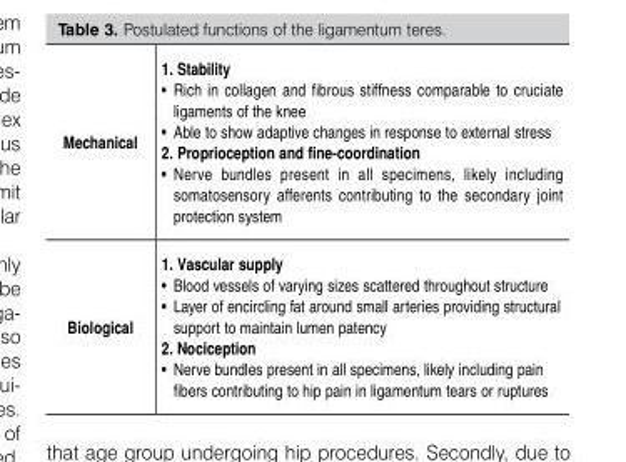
<table><tbody><tr><td>Mechanical</td><td>1. Stability • Rich in collagen and fibrous stiffness comparable to cruciate ligaments of the knee • Able to show adaptive changes in response to external stress 2. Proprioception and fine-coordination • Nerve bundles present in all specimens, likely including somatosensory afferents contributing to the secondary joint protection system</td></tr><tr><td>Biological</td><td>1. Vascular supply • Blood vessels of varying sizes scattered throughout structure • Layer of encircling fat around small arteries providing structural support to maintain lumen patency 2. Nociception • Nerve bundles present in all specimens, likely including pain fibers contributing to hip pain in ligamentum tears or ruptures</td></tr></tbody></table>